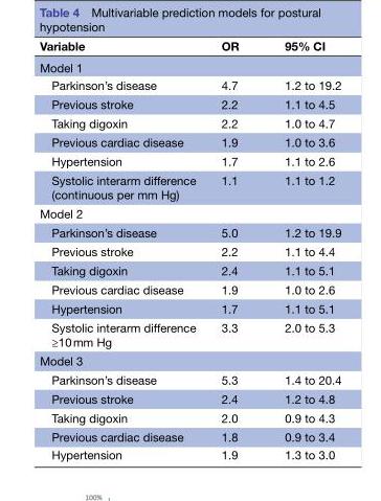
<table><thead><tr><td>Variable</td><td>OR</td><td>95% CI</td></tr></thead><tbody><tr><td colspan="3">Model 1</td></tr><tr><td>Parkinson’s disease</td><td>4.7</td><td>1.2 to 19.2</td></tr><tr><td>Previous stroke</td><td>2.2</td><td>1.1 to 4.5</td></tr><tr><td>Taking digoxin</td><td>2.2</td><td>1.0 to 4.7</td></tr><tr><td>Previous cardiac disease</td><td>1.9</td><td>1.0 to 3.6</td></tr><tr><td>Hypertension</td><td>1.7</td><td>1.1 to 2.6</td></tr><tr><td>Systolic interarm difference (continuous per mm Hg)</td><td>1.1</td><td>1.1 to 1.2</td></tr><tr><td colspan="3">Model 2</td></tr><tr><td>Parkinson’s disease</td><td>5.0</td><td>1.2 to 19.9</td></tr><tr><td>Previous stroke</td><td>2.2</td><td>1.1 to 4.4</td></tr><tr><td>Taking digoxin</td><td>2.4</td><td>1.1 to 5.1</td></tr><tr><td>Previous cardiac disease</td><td>1.9</td><td>1.0 to 2.6</td></tr><tr><td>Hypertension</td><td>1.7</td><td>1.1 to 5.1</td></tr><tr><td>Systolic interarm difference ≥10 mm Hg</td><td>3.3</td><td>2.0 to 5.3</td></tr><tr><td colspan="3">Model 3</td></tr><tr><td>Parkinson’s disease</td><td>5.3</td><td>1.4 to 20.4</td></tr><tr><td>Previous stroke</td><td>2.4</td><td>1.2 to 4.8</td></tr><tr><td>Taking digoxin</td><td>2.0</td><td>0.9 to 4.3</td></tr><tr><td>Previous cardiac disease</td><td>1.8</td><td>0.9 to 3.4</td></tr><tr><td>Hypertension</td><td>1.9</td><td>1.3 to 3.0</td></tr></tbody></table>